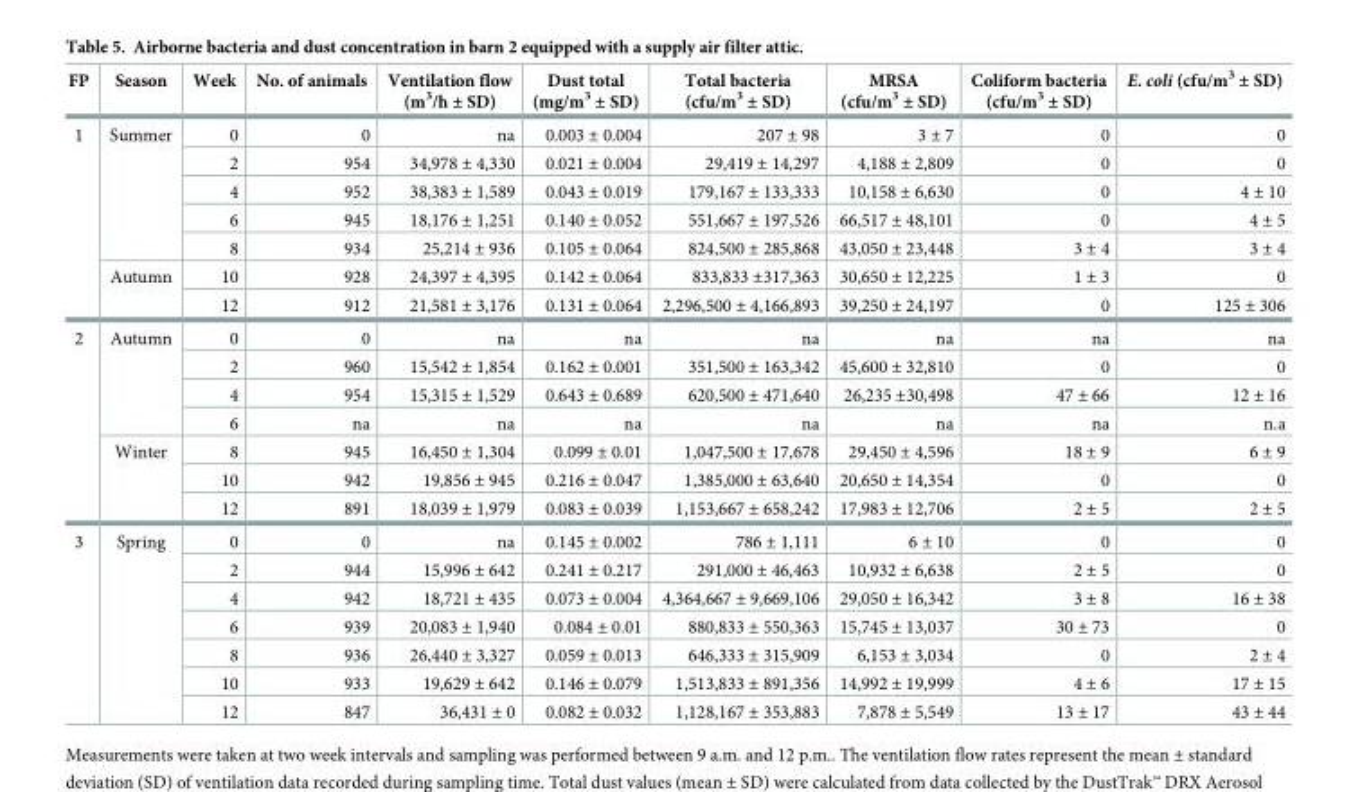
<table><thead><tr><td>FP</td><td>Season</td><td>Week</td><td>No. of animals</td><td>Ventilation flow (m<sup>3</sup>/h ± SD)</td><td>Dust total (mg/m<sup>3</sup> ± SD)</td><td>Total bacteria (cfu/m<sup>3</sup> ± SD)</td><td>MRSA (cfu/m<sup>3</sup> ± SD)</td><td>Coliform bacteria (cfu/m<sup>3</sup> ± SD)</td><td>E. coli (cfu/m<sup>3</sup> ± SD)</td></tr></thead><tbody><tr><td rowspan="7">1</td><td rowspan="5">Summer</td><td>0</td><td>0</td><td>na</td><td>0.003 ± 0.004</td><td>207 ± 98</td><td>3 ± 7</td><td>0</td><td>0</td></tr><tr><td>2</td><td>954</td><td>34,978 ± 4,330</td><td>0.021 ± 0.004</td><td>29,419 ± 14,297</td><td>4,188 ± 2,809</td><td>0</td><td>0</td></tr><tr><td>4</td><td>952</td><td>38,383 ± 1,589</td><td>0.043 ± 0.019</td><td>179,167 ± 133,333</td><td>10,158 ± 6,630</td><td>0</td><td>4 ± 10</td></tr><tr><td>6</td><td>945</td><td>18,176 ± 1,251</td><td>0.140 ± 0.052</td><td>551,667 ± 197,526</td><td>66,517 ± 48,101</td><td>0</td><td>4 ± 5</td></tr><tr><td>8</td><td>934</td><td>25,214 ± 936</td><td>0.105 ± 0.064</td><td>824,500 ± 285,868</td><td>43,050 ± 23,448</td><td>3 ± 4</td><td>3 ± 4</td></tr><tr><td rowspan="2">Autumn</td><td>10</td><td>928</td><td>24,397 ± 4,395</td><td>0.142 ± 0.064</td><td>833,833 ±317,363</td><td>30,650 ± 12,225</td><td>1 ± 3</td><td>0</td></tr><tr><td>12</td><td>912</td><td>21,581 ± 3,176</td><td>0.131 ± 0.064</td><td>2,296,500 ± 4,166,893</td><td>39,250 ± 24,197</td><td>0</td><td>125 ± 306</td></tr><tr><td rowspan="7">2</td><td rowspan="4">Autumn</td><td>0</td><td>0</td><td>na</td><td>na</td><td>na</td><td>na</td><td>na</td><td>na</td></tr><tr><td>2</td><td>960</td><td>15,542 ± 1,854</td><td>0.162 ± 0.001</td><td>351,500 ± 163,342</td><td>45,600 ± 32,810</td><td>0</td><td>0</td></tr><tr><td>4</td><td>954</td><td>15,315 ± 1,529</td><td>0.643 ± 0.689</td><td>620,500 ± 471,640</td><td>26,235 ±30,498</td><td>47 ± 66</td><td>12 ± 16</td></tr><tr><td>6</td><td>na</td><td>na</td><td>na</td><td>na</td><td>na</td><td>na</td><td>n.a</td></tr><tr><td rowspan="3">Winter</td><td>8</td><td>945</td><td>16,450 ± 1,304</td><td>0.099 ± 0.01</td><td>1,047,500 ± 17,678</td><td>29,450 ± 4,596</td><td>18 ± 9</td><td>6 ± 9</td></tr><tr><td>10</td><td>942</td><td>19,856 ± 945</td><td>0.216 ± 0.047</td><td>1,385,000 ± 63,640</td><td>20,650 ± 14,354</td><td>0</td><td>0</td></tr><tr><td>12</td><td>891</td><td>18,039 ± 1,979</td><td>0.083 ± 0.039</td><td>1,153,667 ± 658,242</td><td>17,983 ± 12,706</td><td>2 ± 5</td><td>2 ± 5</td></tr><tr><td rowspan="7">3</td><td rowspan="7">Spring</td><td>0</td><td>0</td><td>na</td><td>0.145 ± 0.002</td><td>786 ± 1,111</td><td>6 ± 10</td><td>0</td><td>0</td></tr><tr><td>2</td><td>944</td><td>15,996 ± 642</td><td>0.241 ± 0.217</td><td>291,000 ± 46,463</td><td>10,932 ± 6,638</td><td>2 ± 5</td><td>0</td></tr><tr><td>4</td><td>942</td><td>18,721 ± 435</td><td>0.073 ± 0.004</td><td>4,364,667 ± 9,669,106</td><td>29,050 ± 16,342</td><td>3 ± 8</td><td>16 ± 38</td></tr><tr><td>6</td><td>939</td><td>20,083 ± 1,940</td><td>0.084 ± 0.01</td><td>880,833 ± 550,363</td><td>15,745 ± 13,037</td><td>30 ± 73</td><td>0</td></tr><tr><td>8</td><td>936</td><td>26,440 ± 3,327</td><td>0.059 ± 0.013</td><td>646,333 ± 315,909</td><td>6,153 ± 3,034</td><td>0</td><td>2 ± 4</td></tr><tr><td>10</td><td>933</td><td>19,629 ± 642</td><td>0.146 ± 0.079</td><td>1,513,833 ± 891,356</td><td>14,992 ± 19,999</td><td>4 ± 6</td><td>17 ± 15</td></tr><tr><td>12</td><td>847</td><td>36,431 ± 0</td><td>0.082 ± 0.032</td><td>1,128,167 ± 353,883</td><td>7,878 ± 5,549</td><td>13 ± 17</td><td>43 ± 44</td></tr></tbody></table>